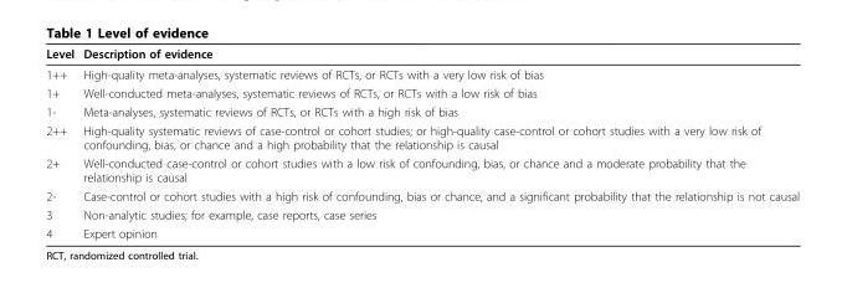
<table><thead><tr><td>Level</td><td>Description of evidence</td></tr></thead><tbody><tr><td>1++</td><td>High-quality meta-analyses, systematic reviews of RCTs, or RCTs with a very low risk of bias</td></tr><tr><td>1+</td><td>Well-conducted meta-analyses, systematic reviews of RCTs, or RCTs with a low risk of bias</td></tr><tr><td>1-</td><td>Meta-analyses, systematic reviews of RCTs, or RCTs with a high risk of bias</td></tr><tr><td>2++</td><td>High-quality systematic reviews of case-control or cohort studies; or high-quality case-control or cohort studies with a very low risk of confounding, bias, or chance and a high probability that the relationship is causal</td></tr><tr><td>2+</td><td>Well-conducted case-control or cohort studies with a low risk of confounding, bias, or chance and a moderate probability that the relationship is causal</td></tr><tr><td>2-</td><td>Case-control or cohort studies with a high risk of confounding, bias or chance, and a significant probability that the relationship is not causal</td></tr><tr><td>3</td><td>Non-analytic studies; for example, case reports, case series</td></tr><tr><td>4</td><td>Expert opinion</td></tr></tbody></table>